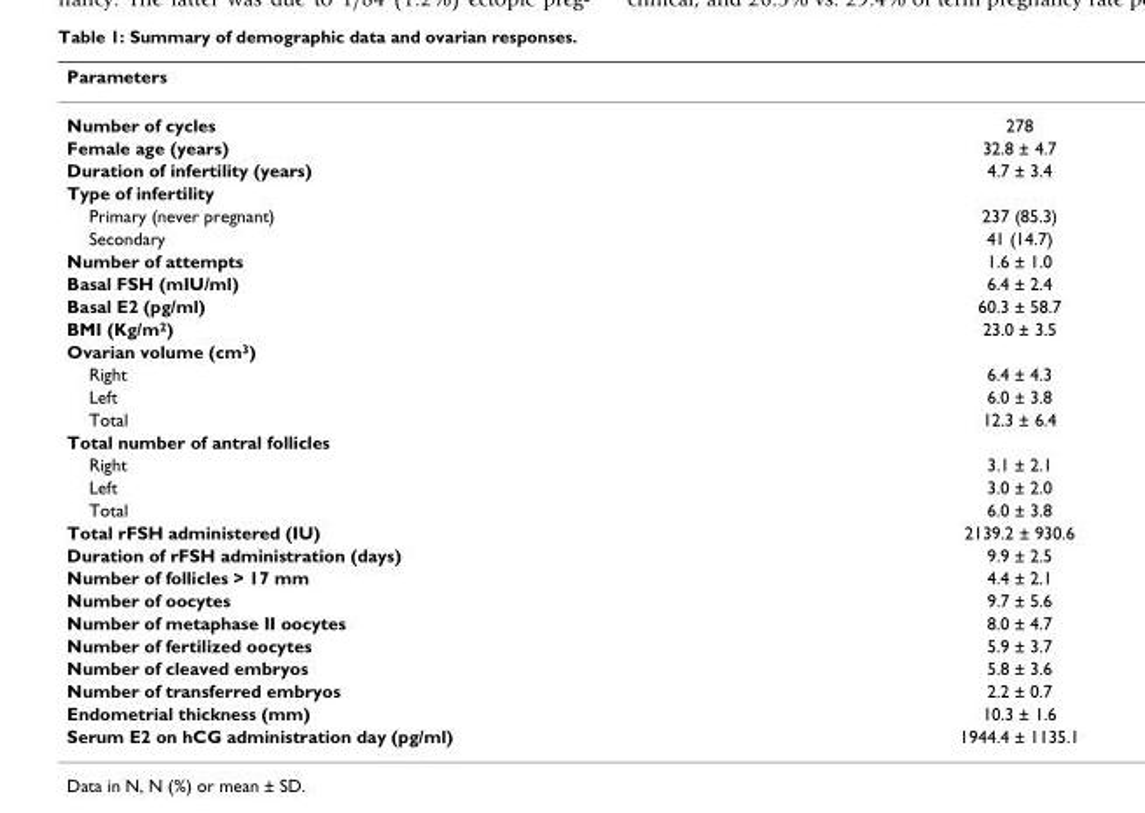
<table><thead><tr><td>Parameters</td><td></td></tr></thead><tbody><tr><td>Number of cycles</td><td>278</td></tr><tr><td>Female age (years)</td><td>32.8 ± 4.7</td></tr><tr><td>Duration of infertility (years)</td><td>4.7 ± 3.4</td></tr><tr><td colspan="2">Type of infertility</td></tr><tr><td>Primary (never pregnant)</td><td>237 (85.3)</td></tr><tr><td>Secondary</td><td>41 (14.7)</td></tr><tr><td>Number of attempts</td><td>1.6 ± 1.0</td></tr><tr><td>Basal FSH (mIU/ml)</td><td>6.4 ± 2.4</td></tr><tr><td>Basal E2 (pg/ml)</td><td>60.3 ± 58.7</td></tr><tr><td>BMI (Kg/m<sup>2</sup>)</td><td>23.0 ± 3.5</td></tr><tr><td colspan="2">Ovarian volume (cm<sup>3</sup>)</td></tr><tr><td>Right</td><td>6.4 ± 4.3</td></tr><tr><td>Left</td><td>6.0 ± 3.8</td></tr><tr><td>Total</td><td>12.3 ± 6.4</td></tr><tr><td colspan="2">Total number of antral follicles</td></tr><tr><td>Right</td><td>3.1 ± 2.1</td></tr><tr><td>Left</td><td>3.0 ± 2.0</td></tr><tr><td>Total</td><td>6.0 ± 3.8</td></tr><tr><td>Total rFSH administered (IU)</td><td>2139.2 ± 930.6</td></tr><tr><td>Duration of rFSH administration (days)</td><td>9.9 ± 2.5</td></tr><tr><td>Number of follicles &gt; 17 mm</td><td>4.4 ± 2.1</td></tr><tr><td>Number of oocytes</td><td>9.7 ± 5.6</td></tr><tr><td>Number of metaphase II oocytes</td><td>8.0 ± 4.7</td></tr><tr><td>Number of fertilized oocytes</td><td>5.9 ± 3.7</td></tr><tr><td>Number of cleaved embryos</td><td>5.8 ± 3.6</td></tr><tr><td>Number of transferred embryos</td><td>2.2 ± 0.7</td></tr><tr><td>Endometrial thickness (mm)</td><td>10.3 ± 1.6</td></tr><tr><td>Serum E2 on hCG administration day (pg/ml)</td><td>1944.4 ± 1135.1</td></tr></tbody></table>